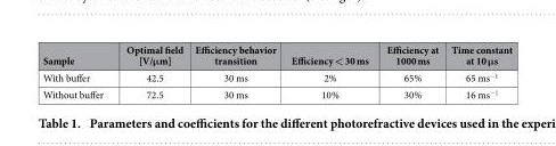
<table><thead><tr><td>Sample</td><td>Optimal field [V/μm]</td><td>Efficiency behavior transition</td><td>Efficiency &lt; 30 ms</td><td>Efficiency at 1000 ms</td><td>Time constant at 10 μs</td></tr></thead><tbody><tr><td>With buffer</td><td>42.5</td><td>30 ms</td><td>2%</td><td>65%</td><td>65 ms<sup>−1</sup></td></tr><tr><td>Without buffer</td><td>72.5</td><td>30 ms</td><td>10%</td><td>30%</td><td>16 ms<sup>−1</sup></td></tr></tbody></table>